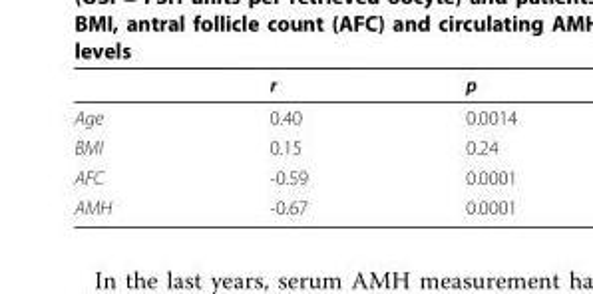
<table><thead><tr><td></td><td>r</td><td>p</td></tr></thead><tbody><tr><td>Age</td><td>0.40</td><td>0.0014</td></tr><tr><td>BMI</td><td>0.15</td><td>0.24</td></tr><tr><td>AFC</td><td>-0.59</td><td>0.0001</td></tr><tr><td>AMH</td><td>-0.67</td><td>0.0001</td></tr></tbody></table>